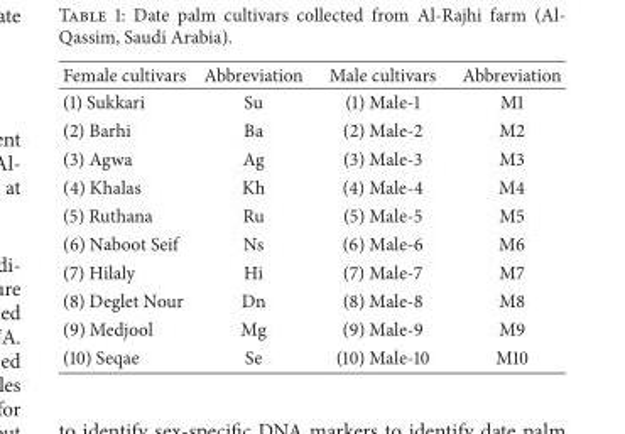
<table><thead><tr><td>Female cultivars</td><td>Abbreviation</td><td>Male cultivars</td><td>Abbreviation</td></tr></thead><tbody><tr><td>(1) Sukkari</td><td>Su</td><td>(1) Male-1</td><td>M1</td></tr><tr><td>(2) Barhi</td><td>Ba</td><td>(2) Male-2</td><td>M2</td></tr><tr><td>(3) Agwa</td><td>Ag</td><td>(3) Male-3</td><td>M3</td></tr><tr><td>(4) Khalas</td><td>Kh</td><td>(4) Male-4</td><td>M4</td></tr><tr><td>(5) Ruthana</td><td>Ru</td><td>(5) Male-5</td><td>M5</td></tr><tr><td>(6) Naboot Seif</td><td>Ns</td><td>(6) Male-6</td><td>M6</td></tr><tr><td>(7) Hilaly</td><td>Hi</td><td>(7) Male-7</td><td>M7</td></tr><tr><td>(8) Deglet Nour</td><td>Dn</td><td>(8) Male-8</td><td>M8</td></tr><tr><td>(9) Medjool</td><td>Mg</td><td>(9) Male-9</td><td>M9</td></tr><tr><td>(10) Seqae</td><td>Se</td><td>(10) Male-10</td><td>M10</td></tr></tbody></table>